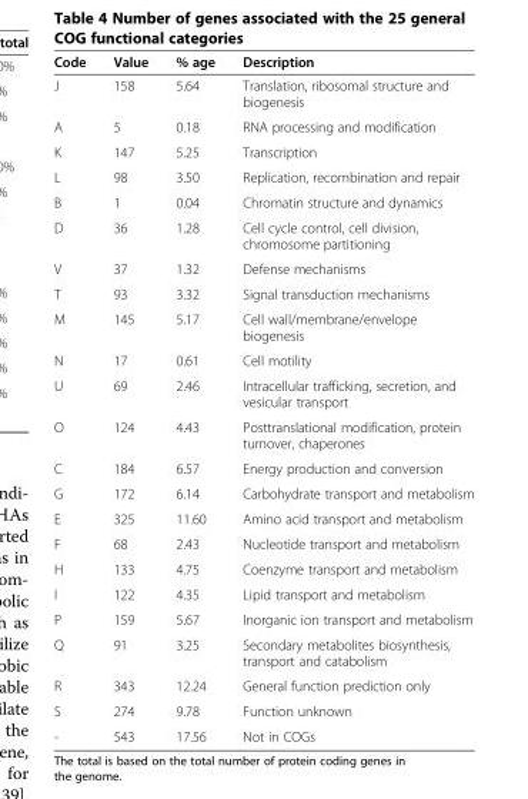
<table><thead><tr><td>Code</td><td>Value</td><td>% age</td><td>Description</td></tr></thead><tbody><tr><td>J</td><td>158</td><td>5.64</td><td>Translation, ribosomal structure and biogenesis</td></tr><tr><td>A</td><td>5</td><td>0.18</td><td>RNA processing and modification</td></tr><tr><td>K</td><td>147</td><td>5.25</td><td>Transcription</td></tr><tr><td>L</td><td>98</td><td>3.50</td><td>Replication, recombination and repair</td></tr><tr><td>B</td><td>1</td><td>0.04</td><td>Chromatin structure and dynamics</td></tr><tr><td>D</td><td>36</td><td>1.28</td><td>Cell cycle control, cell division, chromosome partitioning</td></tr><tr><td>V</td><td>37</td><td>1.32</td><td>Defense mechanisms</td></tr><tr><td>T</td><td>93</td><td>3.32</td><td>Signal transduction mechanisms</td></tr><tr><td>M</td><td>145</td><td>5.17</td><td>Cell wall/membrane/envelope biogenesis</td></tr><tr><td>N</td><td>17</td><td>0.61</td><td>Cell motility</td></tr><tr><td>U</td><td>69</td><td>2.46</td><td>Intracellular trafficking, secretion, and vesicular transport</td></tr><tr><td>O</td><td>124</td><td>4.43</td><td>Posttranslational modification, protein turnover, chaperones</td></tr><tr><td>C</td><td>184</td><td>6.57</td><td>Energy production and conversion</td></tr><tr><td>G</td><td>172</td><td>6.14</td><td>Carbohydrate transport and metabolism</td></tr><tr><td>E</td><td>325</td><td>11.60</td><td>Amino acid transport and metabolism</td></tr><tr><td>F</td><td>68</td><td>2.43</td><td>Nucleotide transport and metabolism</td></tr><tr><td>H</td><td>133</td><td>4.75</td><td>Coenzyme transport and metabolism</td></tr><tr><td>I</td><td>122</td><td>4.35</td><td>Lipid transport and metabolism</td></tr><tr><td>P</td><td>159</td><td>5.67</td><td>Inorganic ion transport and metabolism</td></tr><tr><td>Q</td><td>91</td><td>3.25</td><td>Secondary metabolites biosynthesis, transport and catabolism</td></tr><tr><td>R</td><td>343</td><td>12.24</td><td>General function prediction only</td></tr><tr><td>S</td><td>274</td><td>9.78</td><td>Function unknown</td></tr><tr><td>-</td><td>543</td><td>17.56</td><td>Not in COGs</td></tr></tbody></table>